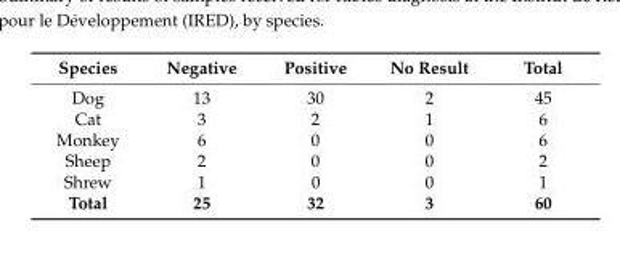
<table><thead><tr><td>Species</td><td>Negative</td><td>Positive</td><td>No Result</td><td>Total</td></tr></thead><tbody><tr><td>Dog</td><td>13</td><td>30</td><td>2</td><td>45</td></tr><tr><td>Cat</td><td>3</td><td>2</td><td>1</td><td>6</td></tr><tr><td>Monkey</td><td>6</td><td>0</td><td>0</td><td>6</td></tr><tr><td>Sheep</td><td>2</td><td>0</td><td>0</td><td>2</td></tr><tr><td>Shrew</td><td>1</td><td>0</td><td>0</td><td>1</td></tr><tr><td>Total</td><td>25</td><td>32</td><td>3</td><td>60</td></tr></tbody></table>